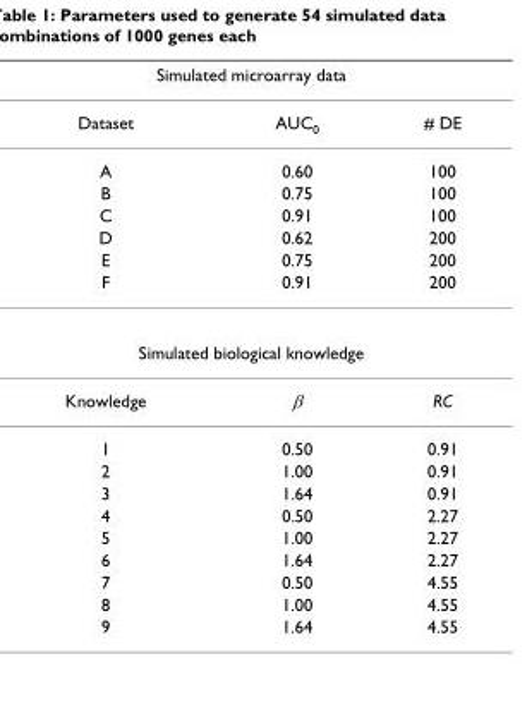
<table><thead><tr><td colspan="3">Simulated microarray data</td></tr><tr><td>Dataset</td><td>AUC<sub>0</sub></td><td># DE</td></tr></thead><tbody><tr><td>A</td><td>0.60</td><td>100</td></tr><tr><td>B</td><td>0.75</td><td>100</td></tr><tr><td>C</td><td>0.91</td><td>100</td></tr><tr><td>D</td><td>0.62</td><td>200</td></tr><tr><td>E</td><td>0.75</td><td>200</td></tr><tr><td>F</td><td>0.91</td><td>200</td></tr><tr><td colspan="3">Simulated biological knowledge</td></tr><tr><td>Knowledge</td><td>β</td><td>RC</td></tr><tr><td>1</td><td>0.50</td><td>0.91</td></tr><tr><td>2</td><td>1.00</td><td>0.91</td></tr><tr><td>3</td><td>1.64</td><td>0.91</td></tr><tr><td>4</td><td>0.50</td><td>2.27</td></tr><tr><td>5</td><td>1.00</td><td>2.27</td></tr><tr><td>6</td><td>1.64</td><td>2.27</td></tr><tr><td>7</td><td>0.50</td><td>4.55</td></tr><tr><td>8</td><td>1.00</td><td>4.55</td></tr><tr><td>9</td><td>1.64</td><td>4.55</td></tr></tbody></table>